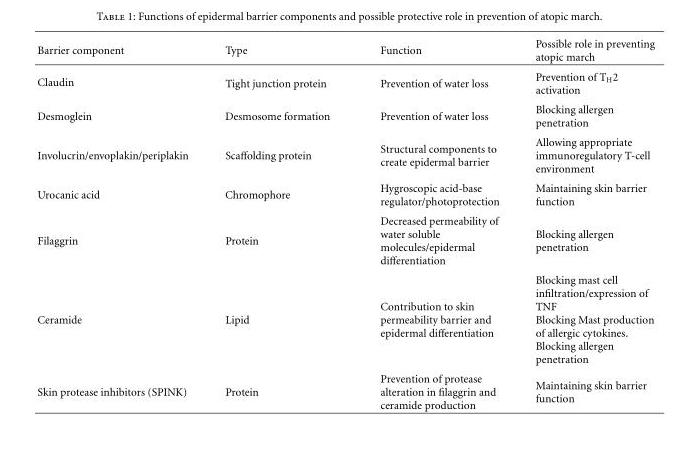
<table><thead><tr><td>Barrier component</td><td>Type</td><td>Function</td><td>Possible role in preventing atopic march</td></tr></thead><tbody><tr><td>Claudin</td><td>Tight junction protein</td><td>Prevention of water loss</td><td>Prevention of T<sub>H</sub>2 activation</td></tr><tr><td>Desmoglein</td><td>Desmosome formation</td><td>Prevention of water loss</td><td>Blocking allergen penetration</td></tr><tr><td>Involucrin/envoplakin/periplakin</td><td>Scaffolding protein</td><td>Structural components to create epidermal barrier</td><td>Allowing appropriate immunoregulatory T-cell environment</td></tr><tr><td>Urocanic acid</td><td>Chromophore</td><td>Hygroscopic acid-base regulator/photoprotection</td><td>Maintaining skin barrier function</td></tr><tr><td>Filaggrin</td><td>Protein</td><td>Decreased permeability of water soluble molecules/epidermal differentiation</td><td>Blocking allergen penetration</td></tr><tr><td>Ceramide</td><td>Lipid</td><td>Contribution to skin permeability barrier and epidermal differentiation</td><td>Blocking mast cell infiltration/expression of TNF Blocking Mast production of allergic cytokines. Blocking allergen penetration</td></tr><tr><td>Skin protease inhibitors (SPINK)</td><td>Protein</td><td>Prevention of protease alteration in filaggrin and ceramide production</td><td>Maintaining skin barrier function</td></tr></tbody></table>